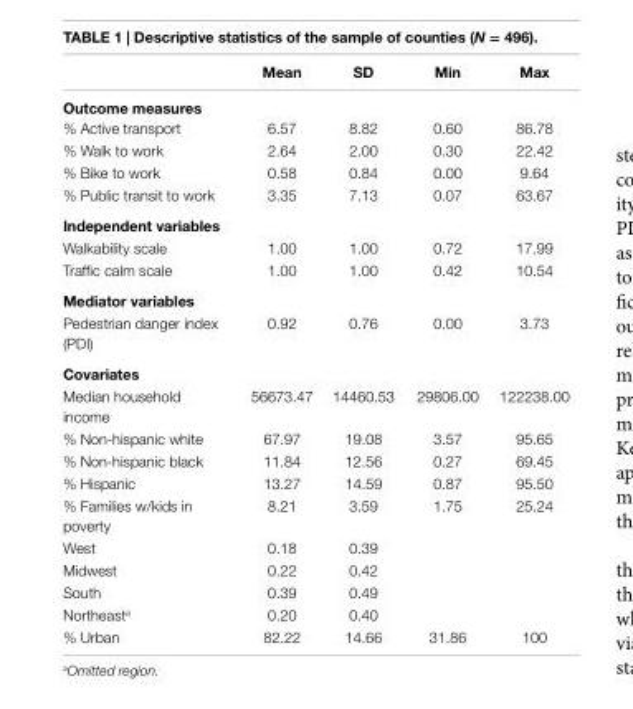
<table><thead><tr><td></td><td>Mean</td><td>sD</td><td>Min</td><td>Max</td></tr></thead><tbody><tr><td colspan="5">Outcome measures</td></tr><tr><td>% Active transport</td><td>6.57</td><td>8.82</td><td>0.60</td><td>86.78</td></tr><tr><td>% Walk to work</td><td>2.64</td><td>2.00</td><td>0.30</td><td>22.42</td></tr><tr><td>% Bike to work</td><td>0.58</td><td>0.84</td><td>0.00</td><td>9.64</td></tr><tr><td>% Public transit to work</td><td>3.35</td><td>7.13</td><td>0.07</td><td>63.67</td></tr><tr><td colspan="5">independent variables</td></tr><tr><td>Walkability scale</td><td>1.00</td><td>1.00</td><td>0.72</td><td>17.99</td></tr><tr><td>Traffic calm scale</td><td>1.00</td><td>1.00</td><td>0.42</td><td>10.54</td></tr><tr><td colspan="5">Mediator variables</td></tr><tr><td>Pedestrian danger index (PDI)</td><td>0.92</td><td>0.76</td><td>0.00</td><td>3.73</td></tr><tr><td colspan="5">covariates</td></tr><tr><td>Median household income</td><td>56673.47</td><td>14460.53</td><td>29806.00</td><td>122238.00</td></tr><tr><td>% Non-hispanic white</td><td>67.97</td><td>19.08</td><td>3.57</td><td>95.65</td></tr><tr><td>% Non-hispanic black</td><td>11.84</td><td>12.56</td><td>0.27</td><td>69.45</td></tr><tr><td>% Hispanic</td><td>13.27</td><td>14.59</td><td>0.87</td><td>95.50</td></tr><tr><td>% Families w/kids in poverty</td><td>8.21</td><td>3.59</td><td>1.75</td><td>25.24</td></tr><tr><td>West</td><td>0.18</td><td>0.39</td><td></td><td></td></tr><tr><td>Midwest</td><td>0.22</td><td>0.42</td><td></td><td></td></tr><tr><td>South</td><td>0.39</td><td>0.49</td><td></td><td></td></tr><tr><td>Northeast<sup>a</sup></td><td>0.20</td><td>0.40</td><td></td><td></td></tr><tr><td>% Urban</td><td>82.22</td><td>14.66</td><td>31.86</td><td>100</td></tr></tbody></table>